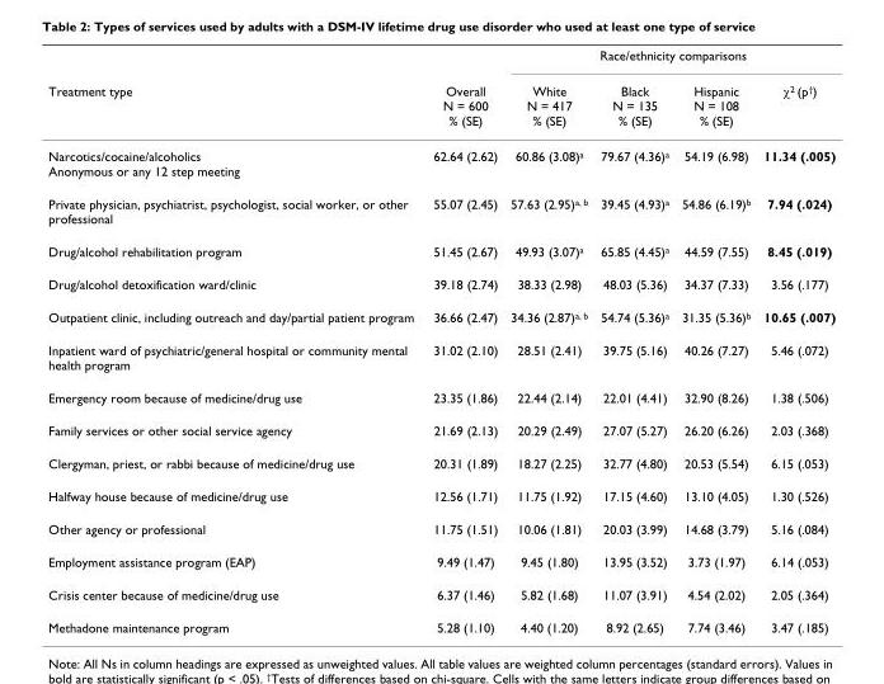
<table><thead><tr><td rowspan="2">Treatment type</td><td rowspan="2">Overall N = 600 % (SE)</td><td colspan="4">Race/ethnicity comparisons</td></tr><tr><td>White N = 417 % (SE)</td><td>Black N = 135 % (SE)</td><td>Hispanic N = 108 % (SE)</td><td>χ<sup>2</sup> (p<sup>†</sup>)</td></tr></thead><tbody><tr><td>Narcotics/cocaine/alcoholics Anonymous or any 12 step meeting</td><td>62.64 (2.62)</td><td>60.86 (3.08)<sup>a</sup></td><td>79.67 (4.36)<sup>a</sup></td><td>54.19 (6.98)</td><td>11.34 (.005)</td></tr><tr><td>Private physician, psychiatrist, psychologist, social worker, or other professional</td><td>55.07 (2.45)</td><td>57.63 (2.95)<sup>a, b</sup></td><td>39.45 (4.93)<sup>a</sup></td><td>54.86 (6.19)<sup>b</sup></td><td>7.94 (.024)</td></tr><tr><td>Drug/alcohol rehabilitation program</td><td>51.45 (2.67)</td><td>49.93 (3.07)<sup>a</sup></td><td>65.85 (4.45)<sup>a</sup></td><td>44.59 (7.55)</td><td>8.45 (.019)</td></tr><tr><td>Drug/alcohol detoxification ward/clinic</td><td>39.18 (2.74)</td><td>38.33 (2.98)</td><td>48.03 (5.36)</td><td>34.37 (7.33)</td><td>3.56 (.177)</td></tr><tr><td>Outpatient clinic, including outreach and day/partial patient program</td><td>36.66 (2.47)</td><td>34.36 (2.87)<sup>a, b</sup></td><td>54.74 (5.36)<sup>a</sup></td><td>31.35 (5.36)<sup>b</sup></td><td>10.65 (.007)</td></tr><tr><td>Inpatient ward of psychiatric/general hospital or community mental health program</td><td>31.02 (2.10)</td><td>28.51 (2.41)</td><td>39.75 (5.16)</td><td>40.26 (7.27)</td><td>5.46 (.072)</td></tr><tr><td>Emergency room because of medicine/drug use</td><td>23.35 (1.86)</td><td>22.44 (2.14)</td><td>22.01 (4.41)</td><td>32.90 (8.26)</td><td>1.38 (.506)</td></tr><tr><td>Family services or other social service agency</td><td>21.69 (2.13)</td><td>20.29 (2.49)</td><td>27.07 (5.27)</td><td>26.20 (6.26)</td><td>2.03 (.368)</td></tr><tr><td>Clergyman, priest, or rabbi because of medicine/drug use</td><td>20.31 (1.89)</td><td>18.27 (2.25)</td><td>32.77 (4.80)</td><td>20.53 (5.54)</td><td>6.15 (.053)</td></tr><tr><td>Halfway house because of medicine/drug use</td><td>12.56 (1.71)</td><td>11.75 (1.92)</td><td>17.15 (4.60)</td><td>13.10 (4.05)</td><td>1.30 (.526)</td></tr><tr><td>Other agency or professional</td><td>11.75 (1.51)</td><td>10.06 (1.81)</td><td>20.03 (3.99)</td><td>14.68 (3.79)</td><td>5.16 (.084)</td></tr><tr><td>Employment assistance program (EAP)</td><td>9.49 (1.47)</td><td>9.45 (1.80)</td><td>13.95 (3.52)</td><td>3.73 (1.97)</td><td>6.14 (.053)</td></tr><tr><td>Crisis center because of medicine/drug use</td><td>6.37 (1.46)</td><td>5.82 (1.68)</td><td>11.07 (3.91)</td><td>4.54 (2.02)</td><td>2.05 (.364)</td></tr><tr><td>Methadone maintenance program</td><td>5.28 (1.10)</td><td>4.40 (1.20)</td><td>8.92 (2.65)</td><td>7.74 (3.46)</td><td>3.47 (.185)</td></tr></tbody></table>